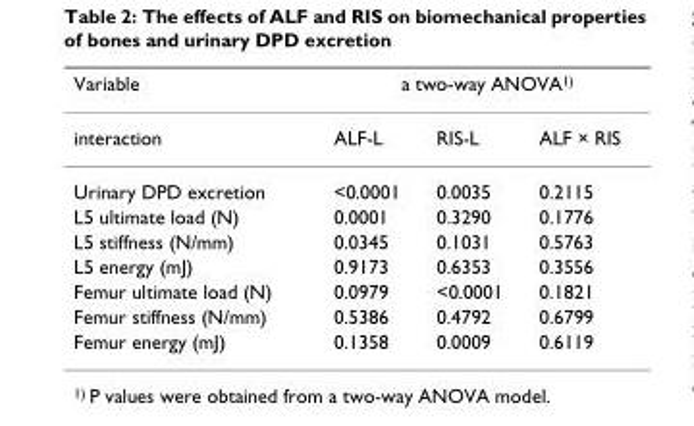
<table><thead><tr><td rowspan="2">Variable interaction</td><td colspan="3">a two-way ANOVA1)</td></tr><tr><td>ALF-L</td><td>RIS-L</td><td>ALF × RIS</td></tr></thead><tbody><tr><td>Urinary DPD excretion</td><td>&lt;0.0001</td><td>0.0035</td><td>0.2115</td></tr><tr><td>L5 ultimate load (N)</td><td>0.0001</td><td>0.3290</td><td>0.1776</td></tr><tr><td>L5 stiffness (N/mm)</td><td>0.0345</td><td>0.1031</td><td>0.5763</td></tr><tr><td>L5 energy (mJ)</td><td>0.9173</td><td>0.6353</td><td>0.3556</td></tr><tr><td>Femur ultimate load (N)</td><td>0.0979</td><td>&lt;0.0001</td><td>0.1821</td></tr><tr><td>Femur stiffness (N/mm)</td><td>0.5386</td><td>0.4792</td><td>0.6799</td></tr><tr><td>Femur energy (mJ)</td><td>0.1358</td><td>0.0009</td><td>0.6119</td></tr></tbody></table>